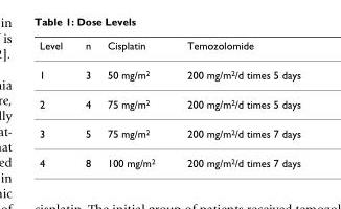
<table><thead><tr><td>Level</td><td>n</td><td>Cisplatin</td><td>Temozolomide</td></tr></thead><tbody><tr><td>1</td><td>3</td><td>50 mg/m<sup>2</sup></td><td>200 mg/m<sup>2</sup>/d times 5 days</td></tr><tr><td>2</td><td>4</td><td>75 mg/m<sup>2</sup></td><td>200 mg/m<sup>2</sup>/d times 5 days</td></tr><tr><td>3</td><td>5</td><td>75 mg/m<sup>2</sup></td><td>200 mg/m<sup>2</sup>/d times 7 days</td></tr><tr><td>4</td><td>8</td><td>100 mg/m<sup>2</sup></td><td>200 mg/m<sup>2</sup>/d times 7 days</td></tr></tbody></table>